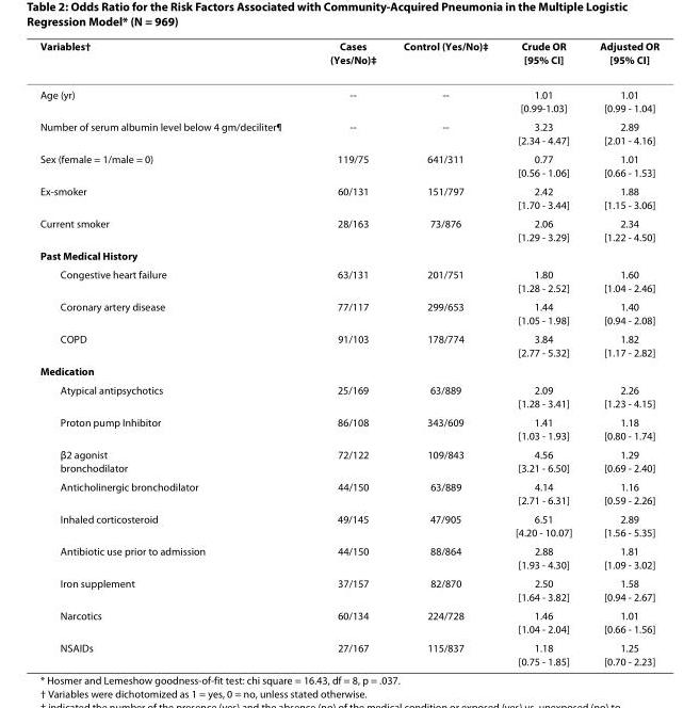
<table><thead><tr><td>Variables†</td><td>Cases (Yes/No)‡</td><td>Control (Yes/No)‡</td><td>Crude OR [95% CI]</td><td>Adjusted OR [95% CI]</td></tr></thead><tbody><tr><td>Age (yr)</td><td>--</td><td>--</td><td>1.01 [0.99-1.03]</td><td>1.01 [0.99 - 1.04]</td></tr><tr><td>Number of serum albumin level below 4 gm/deciliter¶</td><td>--</td><td>--</td><td>3.23 [2.34 - 4.47]</td><td>2.89 [2.01 - 4.16]</td></tr><tr><td>Sex (female = 1/male = 0)</td><td>119/75</td><td>641/311</td><td>0.77 [0.56 - 1.06]</td><td>1.01 [0.66 - 1.53]</td></tr><tr><td>Ex-smoker</td><td>60/131</td><td>151/797</td><td>2.42 [1.70 - 3.44]</td><td>1.88 [1.15 - 3.06]</td></tr><tr><td>Current smoker</td><td>28/163</td><td>73/876</td><td>2.06 [1.29 - 3.29]</td><td>2.34 [1.22 - 4.50]</td></tr><tr><td colspan="5">Past Medical History</td></tr><tr><td>Congestive heart failure</td><td>63/131</td><td>201/751</td><td>1.80 [1.28 - 2.52]</td><td>1.60 [1.04 - 2.46]</td></tr><tr><td>Coronary artery disease</td><td>77/117</td><td>299/653</td><td>1.44 [1.05 - 1.98]</td><td>1.40 [0.94 - 2.08]</td></tr><tr><td>COPD</td><td>91/103</td><td>178/774</td><td>3.84 [2.77 - 5.32]</td><td>1.82 [1.17 - 2.82]</td></tr><tr><td colspan="5">Medication</td></tr><tr><td>Atypical antipsychotics</td><td>25/169</td><td>63/889</td><td>2.09 [1.28 - 3.41]</td><td>2.26 [1.23 - 4.15]</td></tr><tr><td>Proton pump Inhibitor</td><td>86/108</td><td>343/609</td><td>1.41 [1.03 - 1.93]</td><td>1.18 [0.80 - 1.74]</td></tr><tr><td>β2 agonist bronchodilator</td><td>72/122</td><td>109/843</td><td>4.56 [3.21 - 6.50]</td><td>1.29 [0.69 - 2.40]</td></tr><tr><td>Anticholinergic bronchodilator</td><td>44/150</td><td>63/889</td><td>4.14 [2.71 - 6.31]</td><td>1.16 [0.59 - 2.26]</td></tr><tr><td>Inhaled corticosteroid</td><td>49/145</td><td>47/905</td><td>6.51 [4.20 - 10.07]</td><td>2.89 [1.56 - 5.35]</td></tr><tr><td>Antibiotic use prior to admission</td><td>44/150</td><td>88/864</td><td>2.88 [1.93 - 4.30]</td><td>1.81 [1.09 - 3.02]</td></tr><tr><td>Iron supplement</td><td>37/157</td><td>82/870</td><td>2.50 [1.64 - 3.82]</td><td>1.58 [0.94 - 2.67]</td></tr><tr><td>Narcotics</td><td>60/134</td><td>224/728</td><td>1.46 [1.04 - 2.04]</td><td>1.01 [0.66 - 1.56]</td></tr><tr><td>NSAIDs</td><td>27/167</td><td>115/837</td><td>1.18 [0.75 - 1.85]</td><td>1.25 [0.70 - 2.23]</td></tr></tbody></table>